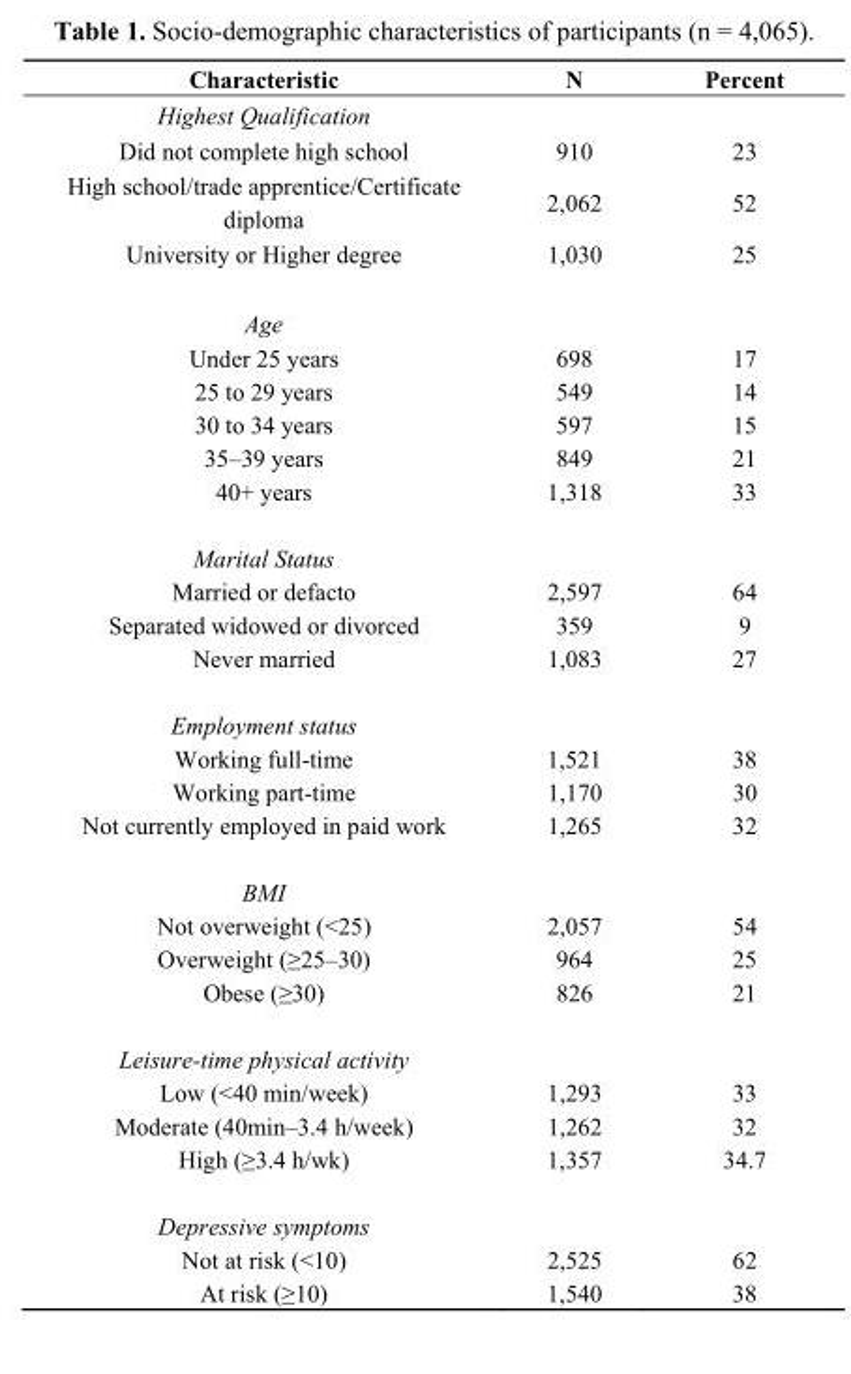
<table><thead><tr><td>Characteristic</td><td>N</td><td>Percent</td></tr></thead><tbody><tr><td colspan="3">Highest Qualification</td></tr><tr><td>Did not complete high school</td><td>910</td><td>23</td></tr><tr><td>High school/trade apprentice/Certificate diploma</td><td>2,062</td><td>52</td></tr><tr><td>University or Higher degree</td><td>1,030</td><td>25</td></tr><tr><td colspan="3">Age</td></tr><tr><td>Under 25 years</td><td>698</td><td>17</td></tr><tr><td>25 to 29 years</td><td>549</td><td>14</td></tr><tr><td>30 to 34 years</td><td>597</td><td>15</td></tr><tr><td>35–39 years</td><td>849</td><td>21</td></tr><tr><td>40+ years</td><td>1,318</td><td>33</td></tr><tr><td colspan="3">Marital Status</td></tr><tr><td>Married or defacto</td><td>2,597</td><td>64</td></tr><tr><td>Separated widowed or divorced</td><td>359</td><td>9</td></tr><tr><td>Never married</td><td>1,083</td><td>27</td></tr><tr><td colspan="3">Employment status</td></tr><tr><td>Working full-time</td><td>1,521</td><td>38</td></tr><tr><td>Working part-time</td><td>1,170</td><td>30</td></tr><tr><td>Not currently employed in paid work</td><td>1,265</td><td>32</td></tr><tr><td colspan="3">BMI</td></tr><tr><td>Not overweight (&lt;25)</td><td>2,057</td><td>54</td></tr><tr><td>Overweight (≥25–30)</td><td>964</td><td>25</td></tr><tr><td>Obese (≥30)</td><td>826</td><td>21</td></tr><tr><td colspan="3">Leisure-time physical activity</td></tr><tr><td>Low (&lt;40 min/week)</td><td>1,293</td><td>33</td></tr><tr><td>Moderate (40min–3.4 h/week)</td><td>1,262</td><td>32</td></tr><tr><td>High (≥3.4 h/wk)</td><td>1,357</td><td>34.7</td></tr><tr><td colspan="3">Depressive symptoms</td></tr><tr><td>Not at risk (&lt;10)</td><td>2,525</td><td>62</td></tr><tr><td>At risk (≥10)</td><td>1,540</td><td>38</td></tr></tbody></table>